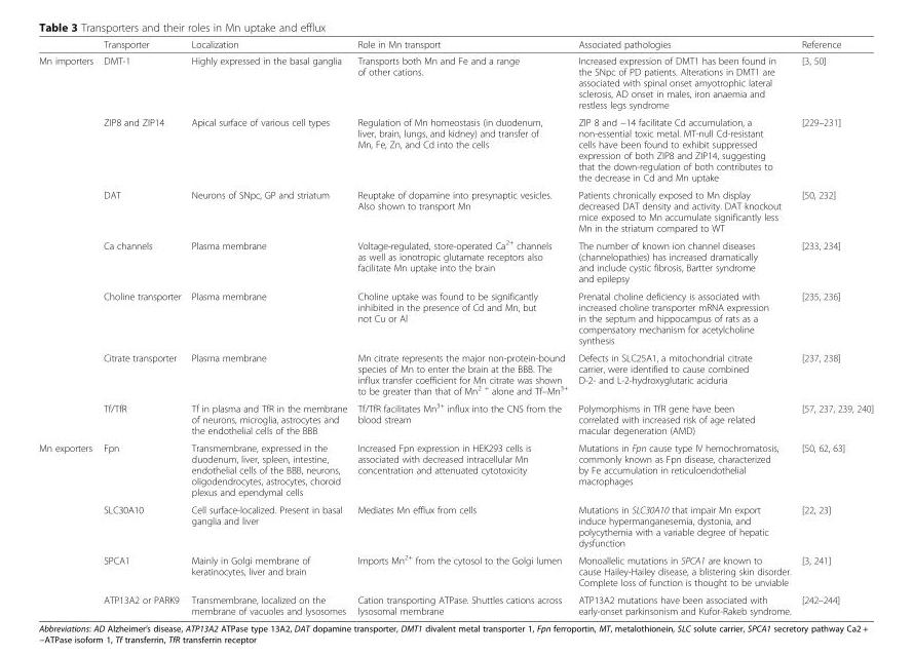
<table><thead><tr><td></td><td>Transporter</td><td>Localization</td><td>Role in Mn transport</td><td>Associated pathologies</td><td>Reference</td></tr></thead><tbody><tr><td rowspan="7">Mn importers</td><td>DMT-1</td><td>Highly expressed in the basal ganglia</td><td>Transports both Mn and Fe and a range of other cations.</td><td>Increased expression of DMT1 has been found in the SNpc of PD patients. Alterations in DMT1 are associated with spinal onset amyotrophic lateral sclerosis, AD onset in males, iron anaemia and restless legs syndrome</td><td>[3, 50]</td></tr><tr><td>ZIP8 and ZIP14</td><td>Apical surface of various cell types</td><td>Regulation of Mn homeostasis (in duodenum, liver, brain, lungs, and kidney) and transfer of Mn, Fe, Zn, and Cd into the cells</td><td>ZIP 8 and −14 facilitate Cd accumulation, a non-essential toxic metal. MT-null Cd-resistant cells have been found to exhibit suppressed expression of both ZIP8 and ZIP14, suggesting that the down-regulation of both contributes to the decrease in Cd and Mn uptake</td><td>[229–231]</td></tr><tr><td>DAT</td><td>Neurons of SNpc, GP and striatum</td><td>Reuptake of dopamine into presynaptic vesicles. Also shown to transport Mn</td><td>Patients chronically exposed to Mn display decreased DAT density and activity. DAT knockout mice exposed to Mn accumulate significantly less Mn in the striatum compared to WT</td><td>[50, 232]</td></tr><tr><td>Ca channels</td><td>Plasma membrane</td><td>Voltage-regulated, store-operated Ca<sup>2+</sup> channels as well as ionotropic glutamate receptors also facilitate Mn uptake into the brain</td><td>The number of known ion channel diseases (channelopathies) has increased dramatically and include cystic fibrosis, Bartter syndrome and epilepsy</td><td>[233, 234]</td></tr><tr><td>Choline transporter</td><td>Plasma membrane</td><td>Choline uptake was found to be significantly inhibited in the presence of Cd and Mn, but not Cu or Al</td><td>Prenatal choline deficiency is associated with increased choline transporter mRNA expression in the septum and hippocampus of rats as a compensatory mechanism for acetylcholine synthesis</td><td>[235, 236]</td></tr><tr><td>Citrate transporter</td><td>Plasma membrane</td><td>Mn citrate represents the major non-protein-bound species of Mn to enter the brain at the BBB. The influx transfer coefficient for Mn citrate was shown to be greater than that of Mn<sup>2 +</sup> alone and Tf–Mn<sup>3+</sup></td><td>Defects in SLC25A1, a mitochondrial citrate carrier, were identified to cause combined D-2- and L-2-hydroxyglutaric aciduria</td><td>[237, 238]</td></tr><tr><td>Tf/TfR</td><td>Tf in plasma and TfR in the membrane of neurons, microglia, astrocytes and the endothelial cells of the BBB</td><td>Tf/TfR facilitates Mn<sup>3+</sup> influx into the CNS from the blood stream</td><td>Polymorphisms in TfR gene have been correlated with increased risk of age related macular degeneration (AMD)</td><td>[57, 237, 239, 240]</td></tr><tr><td rowspan="4">Mn exporters</td><td>Fpn</td><td>Transmembrane, expressed in the duodenum, liver, spleen, intestine, endothelial cells of the BBB, neurons, oligodendrocytes, astrocytes, choroid plexus and ependymal cells</td><td>Increased Fpn expression in HEK293 cells is associated with decreased intracellular Mn concentration and attenuated cytotoxicity</td><td>Mutations in Fpn cause type IV hemochromatosis, commonly known as Fpn disease, characterized by Fe accumulation in reticuloendothelial macrophages</td><td>[50, 62, 63]</td></tr><tr><td>SLC30A10</td><td>Cell surface-localized. Present in basal ganglia and liver</td><td>Mediates Mn efflux from cells</td><td>Mutations in SLC30A10 that impair Mn export induce hypermanganesemia, dystonia, and polycythemia with a variable degree of hepatic dysfunction</td><td>[22, 23]</td></tr><tr><td>SPCA1</td><td>Mainly in Golgi membrane of keratinocytes, liver and brain</td><td>Imports Mn<sup>2+</sup> from the cytosol to the Golgi lumen</td><td>Monoallelic mutations in SPCA1 are known to cause Hailey-Hailey disease, a blistering skin disorder. Complete loss of function is thought to be unviable</td><td>[3, 241]</td></tr><tr><td>ATP13A2 or PARK9</td><td>Transmembrane, localized on the membrane of vacuoles and lysosomes</td><td>Cation transporting ATPase. Shuttles cations across lysosomal membrane</td><td>ATP13A2 mutations have been associated with early-onset parkinsonism and Kufor-Rakeb syndrome.</td><td>[242–244]</td></tr></tbody></table>